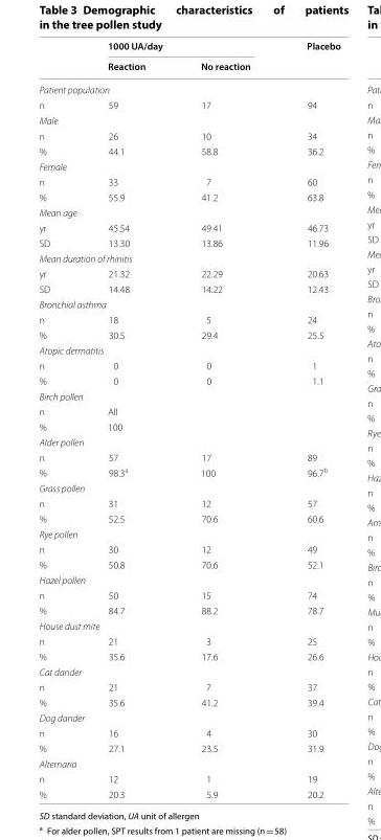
<table><thead><tr><td rowspan="2"></td><td colspan="2">1000 UA/day</td><td rowspan="2">Placebo</td></tr><tr><td>Reaction</td><td>No reaction</td></tr></thead><tbody><tr><td colspan="4">Patient population</td></tr><tr><td>n</td><td>59</td><td>17</td><td>94</td></tr><tr><td colspan="4">Male</td></tr><tr><td>n</td><td>26</td><td>10</td><td>34</td></tr><tr><td>%</td><td>44.1</td><td>58.8</td><td>36.2</td></tr><tr><td colspan="4">Female</td></tr><tr><td>n</td><td>33</td><td>7</td><td>60</td></tr><tr><td>%</td><td>55.9</td><td>41.2</td><td>63.8</td></tr><tr><td colspan="4">Mean age</td></tr><tr><td>yr</td><td>45.54</td><td>49.41</td><td>46.73</td></tr><tr><td>SD</td><td>13.30</td><td>13.86</td><td>11.96</td></tr><tr><td colspan="4">Mean duration of rhinitis</td></tr><tr><td>yr</td><td>21.32</td><td>22.29</td><td>20.63</td></tr><tr><td>SD</td><td>14.48</td><td>14.22</td><td>12.43</td></tr><tr><td colspan="4">Bronchial asthma</td></tr><tr><td>n</td><td>18</td><td>5</td><td>24</td></tr><tr><td>%</td><td>30.5</td><td>29.4</td><td>25.5</td></tr><tr><td colspan="4">Atopic dermatitis</td></tr><tr><td>n</td><td>0</td><td>0</td><td>1</td></tr><tr><td>%</td><td>0</td><td>0</td><td>1.1</td></tr><tr><td colspan="4">Birch pollen</td></tr><tr><td>n</td><td colspan="3">All</td></tr><tr><td>%</td><td colspan="3">100</td></tr><tr><td colspan="4">Alder pollen</td></tr><tr><td>n</td><td>57</td><td>17</td><td>89</td></tr><tr><td>%</td><td>98.3<sup>a</sup></td><td>100</td><td>96.7<sup>b</sup></td></tr><tr><td colspan="4">Grass pollen</td></tr><tr><td>n</td><td>31</td><td>12</td><td>57</td></tr><tr><td>%</td><td>52.5</td><td>70.6</td><td>60.6</td></tr><tr><td colspan="4">Rye pollen</td></tr><tr><td>n</td><td>30</td><td>12</td><td>49</td></tr><tr><td>%</td><td>50.8</td><td>70.6</td><td>52.1</td></tr><tr><td colspan="4">Hazel pollen</td></tr><tr><td>n</td><td>50</td><td>15</td><td>74</td></tr><tr><td>%</td><td>84.7</td><td>88.2</td><td>78.7</td></tr><tr><td colspan="4">House dust mite</td></tr><tr><td>n</td><td>21</td><td>3</td><td>25</td></tr><tr><td>%</td><td>35.6</td><td>17.6</td><td>26.6</td></tr><tr><td colspan="4">Cat dander</td></tr><tr><td>n</td><td>21</td><td>7</td><td>37</td></tr><tr><td>%</td><td>35.6</td><td>41.2</td><td>39.4</td></tr><tr><td colspan="4">Dog dander</td></tr><tr><td>n</td><td>16</td><td>4</td><td>30</td></tr><tr><td>%</td><td>27.1</td><td>23.5</td><td>31.9</td></tr><tr><td colspan="4">Alternaria</td></tr><tr><td>n</td><td>12</td><td>1</td><td>19</td></tr><tr><td>%</td><td>20.3</td><td>5.9</td><td>20.2</td></tr></tbody></table>